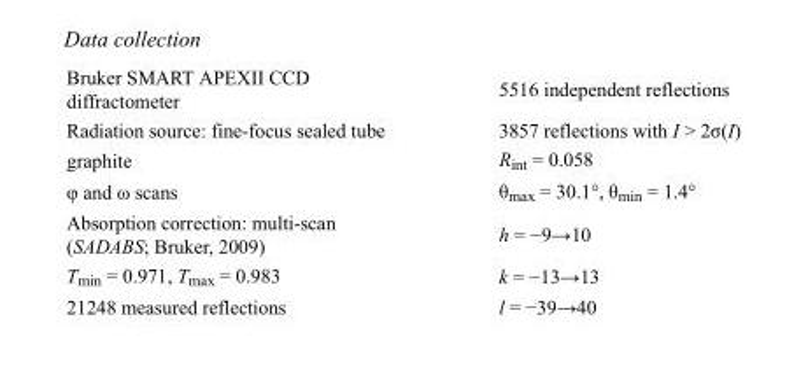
<table><tbody><tr><td>Bruker SMART APEXII CCD diffractometer</td><td>5516 independent reflections</td></tr><tr><td>Radiation source: fine-focus sealed tube</td><td>3857 reflections with I &gt; 2σ(I)</td></tr><tr><td>graphite</td><td>R<sub>int</sub> = 0.058</td></tr><tr><td>φ and ω scans</td><td>θ<sub>max</sub> = 30.1°, θ<sub>min</sub> = 1.4°</td></tr><tr><td>Absorption correction: multi-scan (SADABS; Bruker, 2009)</td><td>h = −9→10</td></tr><tr><td>T<sub>min</sub> = 0.971, T<sub>max</sub> = 0.983</td><td>k = −13→13</td></tr><tr><td>21248 measured reflections</td><td>l = −39→40</td></tr></tbody></table>